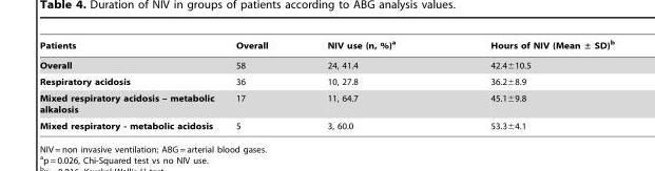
<table><thead><tr><td>Patients</td><td>Overall</td><td>NIV use (n, %)<sup>a</sup></td><td>Hours of NIV (Mean ± SD)<sup>b</sup></td></tr></thead><tbody><tr><td>Overall</td><td>58</td><td>24, 41.4</td><td>42.4±10.5</td></tr><tr><td>Respiratory acidosis</td><td>36</td><td>10, 27.8</td><td>36.2±8.9</td></tr><tr><td>Mixed respiratory acidosis – metabolic alkalosis</td><td>17</td><td>11, 64.7</td><td>45.1±9.8</td></tr><tr><td>Mixed respiratory - metabolic acidosis</td><td>5</td><td>3, 60.0</td><td>53.3±4.1</td></tr></tbody></table>